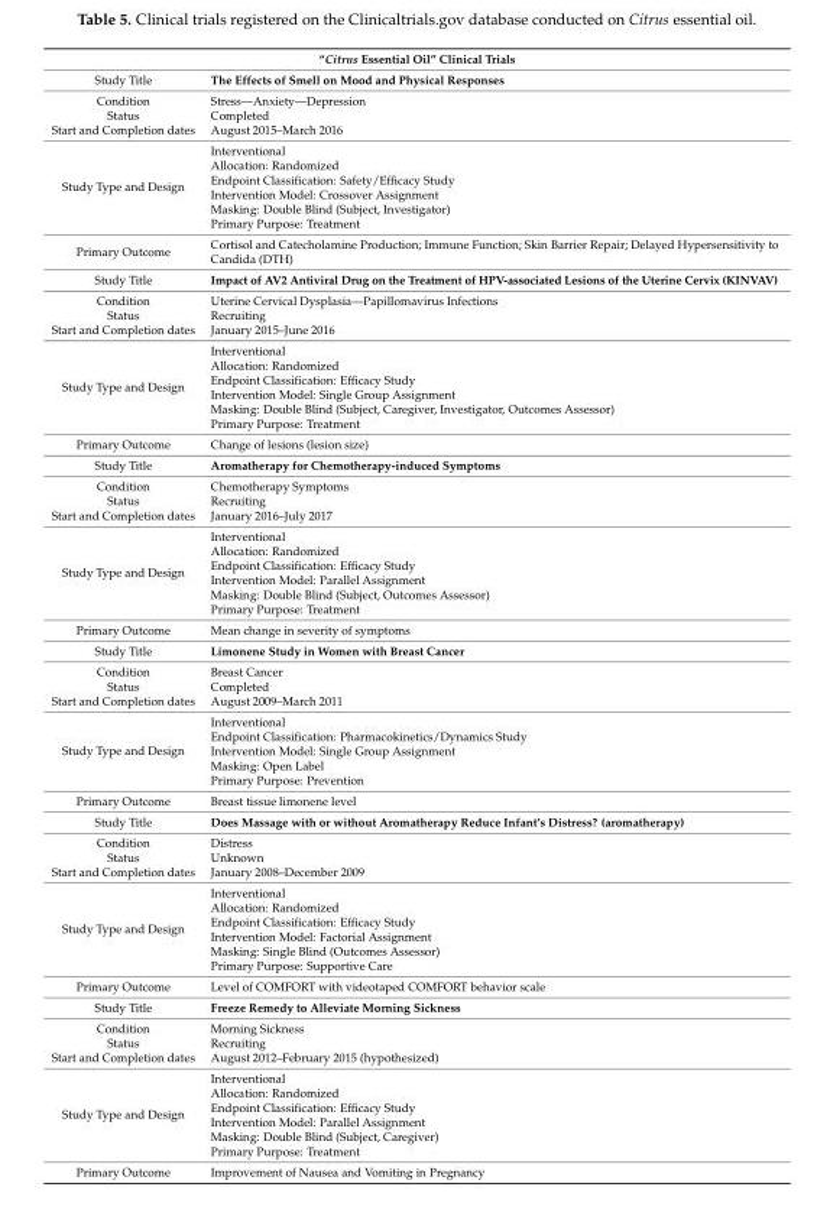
<table><thead><tr><td colspan="2">“Citrus Essential Oil” Clinical Trials</td></tr><tr><td>Study Title</td><td>The Effects of Smell on Mood and Physical Responses</td></tr></thead><tbody><tr><td>Condition</td><td>Stress—Anxiety—Depression</td></tr><tr><td>Status</td><td>Completed</td></tr><tr><td>Start and Completion dates</td><td>August 2015–March 2016</td></tr><tr><td rowspan="6">Study Type and Design</td><td>Interventional</td></tr><tr><td>Allocation: Randomized</td></tr><tr><td>Endpoint Classification: Safety/Efficacy Study</td></tr><tr><td>Intervention Model: Crossover Assignment</td></tr><tr><td>Masking: Double Blind (Subject, Investigator)</td></tr><tr><td>Primary Purpose: Treatment</td></tr><tr><td>Primary Outcome</td><td>Cortisol and Catecholamine Production; Immune Function; Skin Barrier Repair; Delayed Hypersensitivity to Candida (DTH)</td></tr><tr><td>Study Title</td><td>Impact of AV2 Antiviral Drug on the Treatment of HPV-associated Lesions of the Uterine Cervix (KINVAV)</td></tr><tr><td>Condition</td><td>Uterine Cervical Dysplasia—Papillomavirus Infections</td></tr><tr><td>Status</td><td>Recruiting</td></tr><tr><td>Start and Completion dates</td><td>January 2015–June 2016</td></tr><tr><td rowspan="6">Study Type and Design</td><td>Interventional</td></tr><tr><td>Allocation: Randomized</td></tr><tr><td>Endpoint Classification: Efficacy Study</td></tr><tr><td>Intervention Model: Single Group Assignment</td></tr><tr><td>Masking: Double Blind (Subject, Caregiver, Investigator, Outcomes Assessor)</td></tr><tr><td>Primary Purpose: Treatment</td></tr><tr><td>Primary Outcome</td><td>Change of lesions (lesion size)</td></tr><tr><td>Study Title</td><td>Aromatherapy for Chemotherapy-induced Symptoms</td></tr><tr><td>Condition</td><td>Chemotherapy Symptoms</td></tr><tr><td>Status</td><td>Recruiting</td></tr><tr><td>Start and Completion dates</td><td>January 2016–July 2017</td></tr><tr><td rowspan="6">Study Type and Design</td><td>Interventional</td></tr><tr><td>Allocation: Randomized</td></tr><tr><td>Endpoint Classification: Efficacy Study</td></tr><tr><td>Intervention Model: Parallel Assignment</td></tr><tr><td>Masking: Double Blind (Subject, Outcomes Assessor)</td></tr><tr><td>Primary Purpose: Treatment</td></tr><tr><td>Primary Outcome</td><td>Mean change in severity of symptoms</td></tr><tr><td>Study Title</td><td>Limonene Study in Women with Breast Cancer</td></tr><tr><td>Condition</td><td>Breast Cancer</td></tr><tr><td>Status</td><td>Completed</td></tr><tr><td>Start and Completion dates</td><td>August 2009–March 2011</td></tr><tr><td rowspan="5">Study Type and Design</td><td>Interventional</td></tr><tr><td>Endpoint Classification: Pharmacokinetics/Dynamics Study</td></tr><tr><td>Intervention Model: Single Group Assignment</td></tr><tr><td>Masking: Open Label</td></tr><tr><td>Primary Purpose: Prevention</td></tr><tr><td>Primary Outcome</td><td>Breast tissue limonene level</td></tr><tr><td>Study Title</td><td>Does Massage with or without Aromatherapy Reduce Infant’s Distress? (aromatherapy)</td></tr><tr><td>Condition</td><td>Distress</td></tr><tr><td>Status</td><td>Unknown</td></tr><tr><td>Start and Completion dates</td><td>January 2008–December 2009</td></tr><tr><td rowspan="6">Study Type and Design</td><td>Interventional</td></tr><tr><td>Allocation: Randomized</td></tr><tr><td>Endpoint Classification: Efficacy Study</td></tr><tr><td>Intervention Model: Factorial Assignment</td></tr><tr><td>Masking: Single Blind (Outcomes Assessor)</td></tr><tr><td>Primary Purpose: Supportive Care</td></tr><tr><td>Primary Outcome</td><td>Level of COMFORT with videotaped COMFORT behavior scale</td></tr><tr><td>Study Title</td><td>Freeze Remedy to Alleviate Morning Sickness</td></tr><tr><td>Condition</td><td>Morning Sickness</td></tr><tr><td>Status</td><td>Recruiting</td></tr><tr><td>Start and Completion dates</td><td>August 2012–February 2015 (hypothesized)</td></tr><tr><td rowspan="6">Study Type and Design</td><td>Interventional</td></tr><tr><td>Allocation: Randomized</td></tr><tr><td>Endpoint Classification: Efficacy Study</td></tr><tr><td>Intervention Model: Parallel Assignment</td></tr><tr><td>Masking: Double Blind (Subject, Caregiver)</td></tr><tr><td>Primary Purpose: Treatment</td></tr><tr><td>Primary Outcome</td><td>Improvement of Nausea and Vomiting in Pregnancy</td></tr></tbody></table>